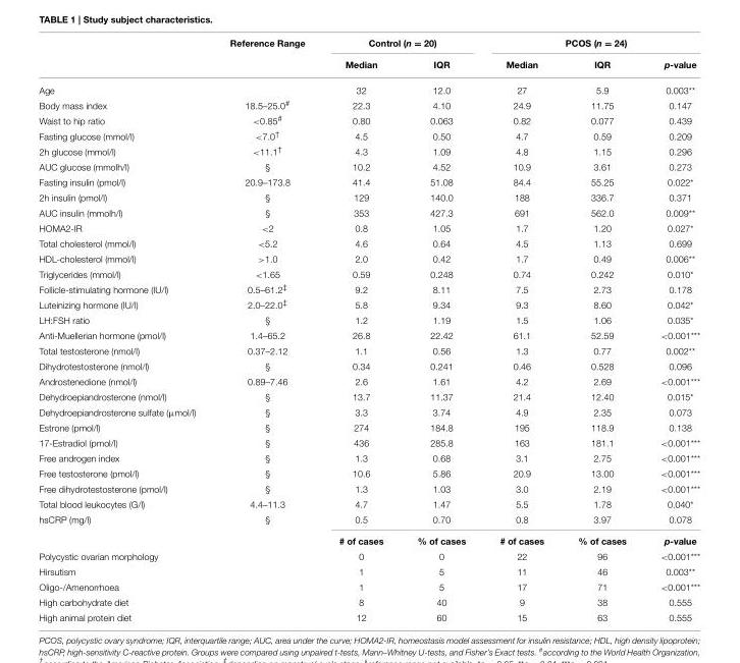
<table><thead><tr><td rowspan="2"></td><td rowspan="2">Reference Range</td><td colspan="2">Control (n = 20)</td><td colspan="3">PCOS (n = 24)</td></tr><tr><td>Median</td><td>IQR</td><td>Median</td><td>IQR</td><td>p-value</td></tr></thead><tbody><tr><td>Age</td><td></td><td>32</td><td>12.0</td><td>27</td><td>5.9</td><td>0.003**</td></tr><tr><td>Body mass index</td><td>18.5–25.0<sup>#</sup></td><td>22.3</td><td>4.10</td><td>24.9</td><td>11.75</td><td>0.147</td></tr><tr><td>Waist to hip ratio</td><td>&lt;0.85<sup>#</sup></td><td>0.80</td><td>0.063</td><td>0.82</td><td>0.077</td><td>0.439</td></tr><tr><td>Fasting glucose (mmol/l)</td><td>&lt;7.0<sup>†</sup></td><td>4.5</td><td>0.50</td><td>4.7</td><td>0.59</td><td>0.209</td></tr><tr><td>2h glucose (mmol/l)</td><td>&lt;11.1<sup>†</sup></td><td>4.3</td><td>1.09</td><td>4.8</td><td>1.15</td><td>0.296</td></tr><tr><td>AUC glucose (mmolh/l)</td><td><sup>§</sup></td><td>10.2</td><td>4.52</td><td>10.9</td><td>3.61</td><td>0.273</td></tr><tr><td>Fasting insulin (pmol/l)</td><td>20.9–173.8</td><td>41.4</td><td>51.08</td><td>84.4</td><td>55.25</td><td>0.022*</td></tr><tr><td>2h insulin (pmol/l)</td><td><sup>§</sup></td><td>129</td><td>140.0</td><td>188</td><td>336.7</td><td>0.371</td></tr><tr><td>AUC insulin (mmolh/l)</td><td><sup>§</sup></td><td>353</td><td>427.3</td><td>691</td><td>562.0</td><td>0.009**</td></tr><tr><td>HOMA2-IR</td><td>&lt;2</td><td>0.8</td><td>1.05</td><td>1.7</td><td>1.20</td><td>0.027*</td></tr><tr><td>Total cholesterol (mmol/l)</td><td>&lt;5.2</td><td>4.6</td><td>0.64</td><td>4.5</td><td>1.13</td><td>0.699</td></tr><tr><td>HDL-cholesterol (mmol/l)</td><td>&gt;1.0</td><td>2.0</td><td>0.42</td><td>1.7</td><td>0.49</td><td>0.006**</td></tr><tr><td>Triglycerides (mmol/l)</td><td>&lt;1.65</td><td>0.59</td><td>0.248</td><td>0.74</td><td>0.242</td><td>0.010*</td></tr><tr><td>Follicle-stimulating hormone (IU/l)</td><td>0.5–61.2<sup>‡</sup></td><td>9.2</td><td>8.11</td><td>7.5</td><td>2.73</td><td>0.178</td></tr><tr><td>Luteinizing hormone (IU/l)</td><td>2.0–22.0<sup>‡</sup></td><td>5.8</td><td>9.34</td><td>9.3</td><td>8.60</td><td>0.042*</td></tr><tr><td>LH:FSH ratio</td><td><sup>§</sup></td><td>1.2</td><td>1.19</td><td>1.5</td><td>1.06</td><td>0.035*</td></tr><tr><td>Anti-Muellerian hormone (pmol/l)</td><td>1.4–65.2</td><td>26.8</td><td>22.42</td><td>61.1</td><td>52.59</td><td>&lt;0.001***</td></tr><tr><td>Total testosterone (nmol/l)</td><td>0.37–2.12</td><td>1.1</td><td>0.56</td><td>1.3</td><td>0.77</td><td>0.002**</td></tr><tr><td>Dihydrotestosterone (nmol/l)</td><td><sup>§</sup></td><td>0.34</td><td>0.241</td><td>0.46</td><td>0.528</td><td>0.096</td></tr><tr><td>Androstenedione (nmol/l)</td><td>0.89–7.46</td><td>2.6</td><td>1.61</td><td>4.2</td><td>2.69</td><td>&lt;0.001***</td></tr><tr><td>Dehydroepiandrosterone (nmol/l)</td><td><sup>§</sup></td><td>13.7</td><td>11.37</td><td>21.4</td><td>12.40</td><td>0.015*</td></tr><tr><td>Dehydroepiandrosterone sulfate (µmol/l)</td><td><sup>§</sup></td><td>3.3</td><td>3.74</td><td>4.9</td><td>2.35</td><td>0.073</td></tr><tr><td>Estrone (pmol/l)</td><td><sup>§</sup></td><td>274</td><td>184.8</td><td>195</td><td>118.9</td><td>0.138</td></tr><tr><td>17-Estradiol (pmol/l)</td><td><sup>§</sup></td><td>436</td><td>285.8</td><td>163</td><td>181.1</td><td>&lt;0.001***</td></tr><tr><td>Free androgen index</td><td><sup>§</sup></td><td>1.3</td><td>0.68</td><td>3.1</td><td>2.75</td><td>&lt;0.001***</td></tr><tr><td>Free testosterone (pmol/l)</td><td><sup>§</sup></td><td>10.6</td><td>5.86</td><td>20.9</td><td>13.00</td><td>&lt;0.001***</td></tr><tr><td>Free dihydrotestosterone (pmol/l)</td><td><sup>§</sup></td><td>1.3</td><td>1.03</td><td>3.0</td><td>2.19</td><td>&lt;0.001***</td></tr><tr><td>Total blood leukocytes (G/l)</td><td>4.4–11.3</td><td>4.7</td><td>1.47</td><td>5.5</td><td>1.78</td><td>0.040*</td></tr><tr><td rowspan="2">hsCRP (mg/l)</td><td><sup>§</sup></td><td>0.5</td><td>0.70</td><td>0.8</td><td>3.97</td><td>0.078</td></tr><tr><td></td><td># of cases</td><td>% of cases</td><td># of cases</td><td>% of cases</td><td>p-value</td></tr><tr><td>Polycystic ovarian morphology</td><td></td><td>0</td><td>0</td><td>22</td><td>96</td><td>&lt;0.001***</td></tr><tr><td>Hirsutism</td><td></td><td>1</td><td>5</td><td>11</td><td>46</td><td>0.003**</td></tr><tr><td>Oligo-/Amenorrhoea</td><td></td><td>1</td><td>5</td><td>17</td><td>71</td><td>&lt;0.001***</td></tr><tr><td>High carbohydrate diet</td><td></td><td>8</td><td>40</td><td>9</td><td>38</td><td>0.555</td></tr><tr><td>High animal protein diet</td><td></td><td>12</td><td>60</td><td>15</td><td>63</td><td>0.555</td></tr></tbody></table>